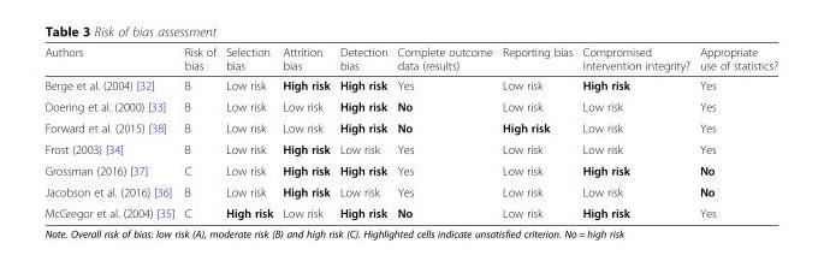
<table><thead><tr><td>Authors</td><td>Risk of bias</td><td>Selection bias</td><td>Attrition bias</td><td>Detection bias</td><td>Complete outcome data (results)</td><td>Reporting bias</td><td>Compromised Intervention integrity?</td><td>Appropriate use of statistics?</td></tr></thead><tbody><tr><td>Berge et al. (2004) [32]</td><td>B</td><td>Low risk</td><td>High risk</td><td>High risk</td><td>Yes</td><td>Low risk</td><td>High risk</td><td>Yes</td></tr><tr><td>Doering et al. (2000) [33]</td><td>B</td><td>Low risk</td><td>Low risk</td><td>High risk</td><td>No</td><td>Low risk</td><td>Low risk</td><td>Yes</td></tr><tr><td>Forward et al. (2015) [38]</td><td>B</td><td>Low risk</td><td>Low risk</td><td>High risk</td><td>No</td><td>High risk</td><td>Low risk</td><td>Yes</td></tr><tr><td>Frost (2003) [34]</td><td>B</td><td>Low risk</td><td>High risk</td><td>Low risk</td><td>Yes</td><td>Low risk</td><td>Low risk</td><td>Yes</td></tr><tr><td>Grossman (2016) [37]</td><td>C</td><td>Low risk</td><td>High risk</td><td>High risk</td><td>Yes</td><td>Low risk</td><td>High risk</td><td>No</td></tr><tr><td>Jacobson et al. (2016) [36]</td><td>B</td><td>Low risk</td><td>High risk</td><td>Low risk</td><td>Yes</td><td>Low risk</td><td>Low risk</td><td>No</td></tr><tr><td>McGregor et al. (2004) [35]</td><td>C</td><td>High risk</td><td>Low risk</td><td>High risk</td><td>No</td><td>Low risk</td><td>High risk</td><td>Yes</td></tr></tbody></table>